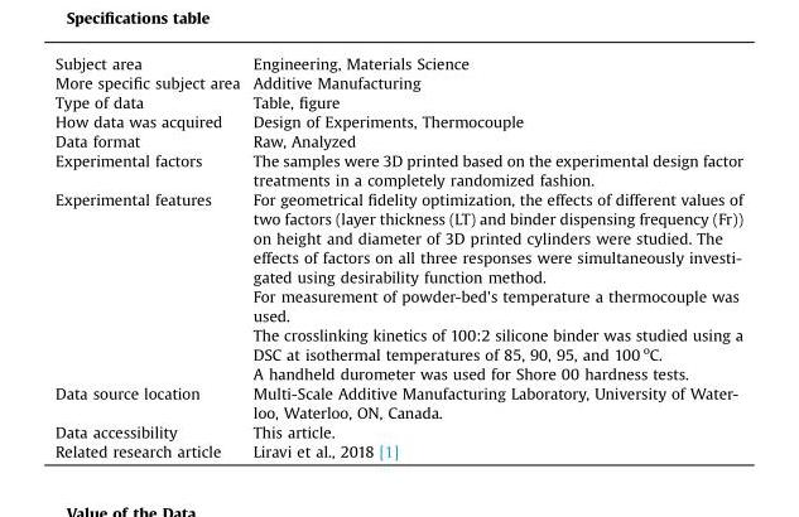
<table><tbody><tr><td>Subject area</td><td>Engineering, Materials Science</td></tr><tr><td>More specific subject area</td><td>Additive Manufacturing</td></tr><tr><td>Type of data</td><td>Table, figure</td></tr><tr><td>How data was acquired</td><td>Design of Experiments, Thermocouple</td></tr><tr><td>Data format</td><td>Raw, Analyzed</td></tr><tr><td>Experimental factors</td><td>The samples were 3D printed based on the experimental design factor treatments in a completely randomized fashion.</td></tr><tr><td rowspan="4">Experimental features</td><td>For geometrical fidelity optimization, the effects of different values of two factors (layer thickness (LT) and binder dispensing frequency (Fr)) on height and diameter of 3D printed cylinders were studied. The effects of factors on all three responses were simultaneously investi- gated using desirability function method.</td></tr><tr><td>For measurement of powder-bed’s temperature a thermocouple was used.</td></tr><tr><td>The crosslinking kinetics of 100:2 silicone binder was studied using a DSC at isothermal temperatures of 85, 90, 95, and 100 <sup>o</sup>C.</td></tr><tr><td>A handheld durometer was used for Shore 00 hardness tests.</td></tr><tr><td>Data source location</td><td>Multi-Scale Additive Manufacturing Laboratory, University of Water- loo, Waterloo, ON, Canada.</td></tr><tr><td>Data accessibility</td><td>This article.</td></tr><tr><td>Related research article</td><td>Liravi et al., 2018 [1]</td></tr></tbody></table>